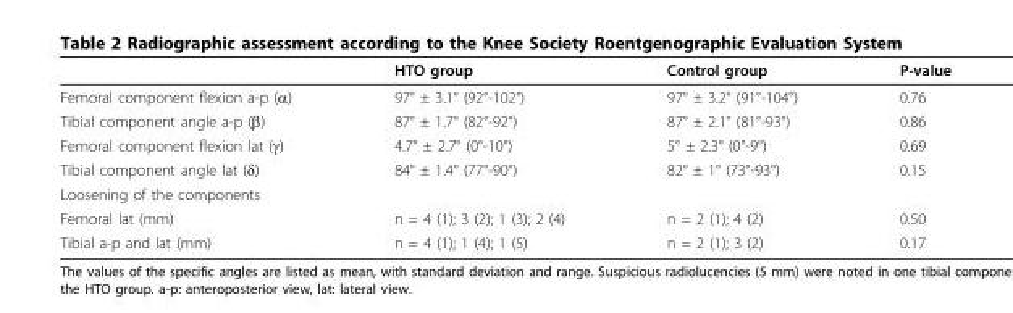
<table><thead><tr><td></td><td>HTO group</td><td>Control group</td><td>P-value</td></tr></thead><tbody><tr><td>Femoral component flexion a-p (α)</td><td>97° ± 3.1° (92°-102°)</td><td>97° ± 3.2° (91°-104°)</td><td>0.76</td></tr><tr><td>Tibial component angle a-p (β)</td><td>87° ± 1.7° (82°-92°)</td><td>87° ± 2.1° (81°-93°)</td><td>0.86</td></tr><tr><td>Femoral component flexion lat (γ)</td><td>4.7° ± 2.7° (0°-10°)</td><td>5° ± 2.3° (0°-9°)</td><td>0.69</td></tr><tr><td>Tibial component angle lat (δ)</td><td>84° ± 1.4° (77°-90°)</td><td>82° ± 1° (73°-93°)</td><td>0.15</td></tr><tr><td colspan="4">Loosening of the components</td></tr><tr><td>Femoral lat (mm)</td><td>n = 4 (1); 3 (2); 1 (3); 2 (4)</td><td>n = 2 (1); 4 (2)</td><td>0.50</td></tr><tr><td>Tibial a-p and lat (mm)</td><td>n = 4 (1); 1 (4); 1 (5)</td><td>n = 2 (1); 3 (2)</td><td>0.17</td></tr></tbody></table>